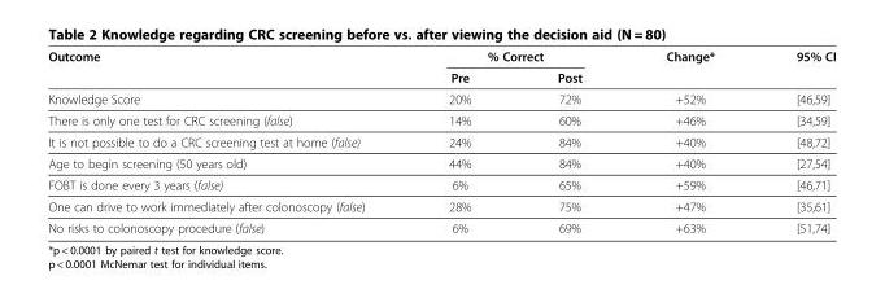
<table><thead><tr><td rowspan="2">Outcome</td><td colspan="2">% Correct</td><td rowspan="2">Change*</td><td rowspan="2">95% CI</td></tr><tr><td>Pre</td><td>Post</td></tr></thead><tbody><tr><td>Knowledge Score</td><td>20%</td><td>72%</td><td>+52%</td><td>[46,59]</td></tr><tr><td>There is only one test for CRC screening (false)</td><td>14%</td><td>60%</td><td>+46%</td><td>[34,59]</td></tr><tr><td>It is not possible to do a CRC screening test at home (false)</td><td>24%</td><td>84%</td><td>+40%</td><td>[48,72]</td></tr><tr><td>Age to begin screening (50 years old)</td><td>44%</td><td>84%</td><td>+40%</td><td>[27,54]</td></tr><tr><td>FOBT is done every 3 years (false)</td><td>6%</td><td>65%</td><td>+59%</td><td>[46,71]</td></tr><tr><td>One can drive to work immediately after colonoscopy (false)</td><td>28%</td><td>75%</td><td>+47%</td><td>[35,61]</td></tr><tr><td>No risks to colonoscopy procedure (false)</td><td>6%</td><td>69%</td><td>+63%</td><td>[51,74]</td></tr></tbody></table>